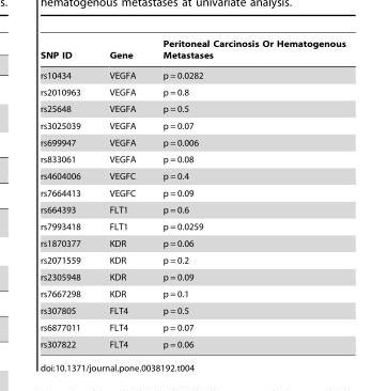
<table><thead><tr><td>SNP ID</td><td>Gene</td><td>Peritoneal Carcinosis Or Hematogenous Metastases</td></tr></thead><tbody><tr><td>rs10434</td><td>VEGFA</td><td>p = 0.0282</td></tr><tr><td>rs2010963</td><td>VEGFA</td><td>p = 0.8</td></tr><tr><td>rs25648</td><td>VEGFA</td><td>p = 0.5</td></tr><tr><td>rs3025039</td><td>VEGFA</td><td>p = 0.07</td></tr><tr><td>rs699947</td><td>VEGFA</td><td>p = 0.006</td></tr><tr><td>rs833061</td><td>VEGFA</td><td>p = 0.08</td></tr><tr><td>rs4604006</td><td>VEGFC</td><td>p = 0.4</td></tr><tr><td>rs7664413</td><td>VEGFC</td><td>p = 0.09</td></tr><tr><td>rs664393</td><td>FLT1</td><td>p = 0.6</td></tr><tr><td>rs7993418</td><td>FLT1</td><td>p = 0.0259</td></tr><tr><td>rs1870377</td><td>KDR</td><td>p = 0.06</td></tr><tr><td>rs2071559</td><td>KDR</td><td>p = 0.2</td></tr><tr><td>rs2305948</td><td>KDR</td><td>p = 0.09</td></tr><tr><td>rs7667298</td><td>KDR</td><td>p = 0.1</td></tr><tr><td>rs307805</td><td>FLT4</td><td>p = 0.5</td></tr><tr><td>rs6877011</td><td>FLT4</td><td>p = 0.07</td></tr><tr><td>rs307822</td><td>FLT4</td><td>p = 0.06</td></tr></tbody></table>